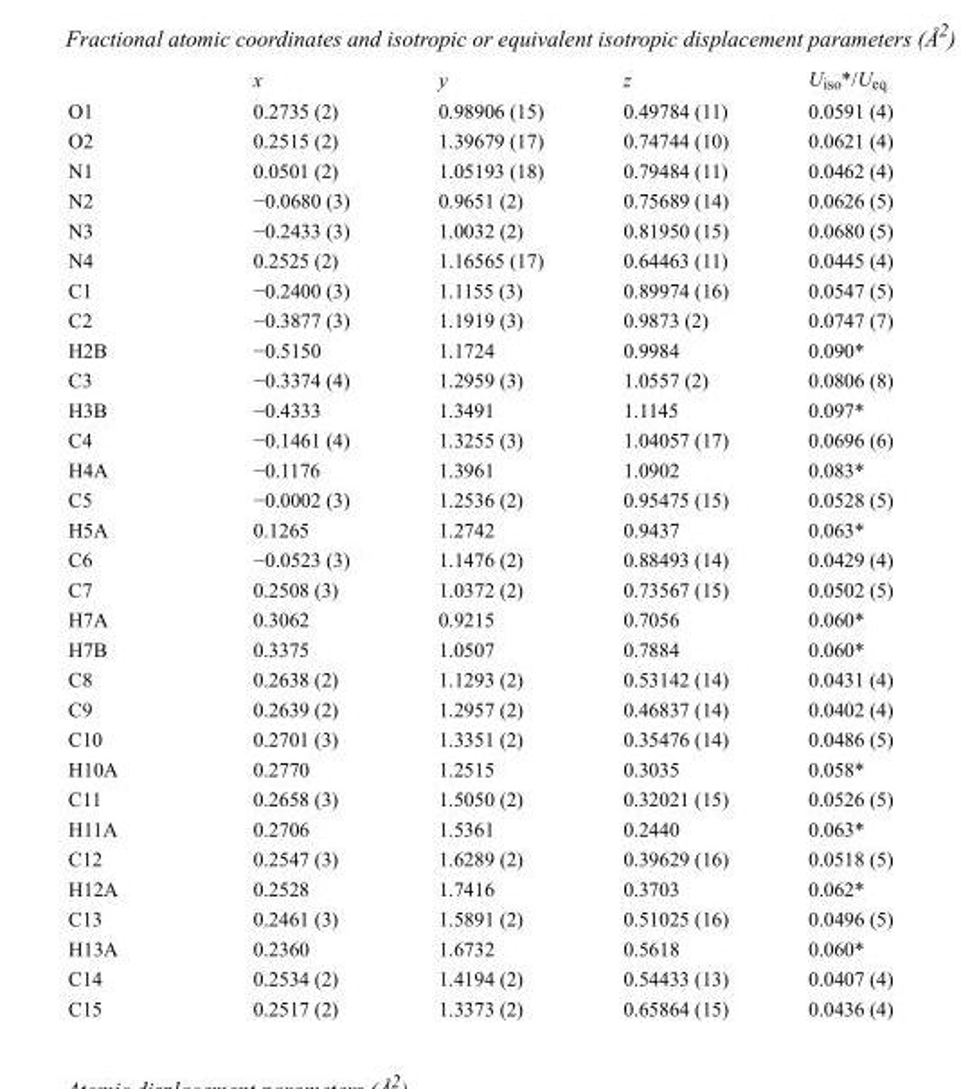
<table><thead><tr><td></td><td>x</td><td>y</td><td>z</td><td>U<sub>iso</sub>*/U<sub>eq</sub></td></tr></thead><tbody><tr><td>O1</td><td>0.2735 (2)</td><td>0.98906 (15)</td><td>0.49784 (11)</td><td>0.0591 (4)</td></tr><tr><td>O2</td><td>0.2515 (2)</td><td>1.39679 (17)</td><td>0.74744 (10)</td><td>0.0621 (4)</td></tr><tr><td>N1</td><td>0.0501 (2)</td><td>1.05193 (18)</td><td>0.79484 (11)</td><td>0.0462 (4)</td></tr><tr><td>N2</td><td>−0.0680 (3)</td><td>0.9651 (2)</td><td>0.75689 (14)</td><td>0.0626 (5)</td></tr><tr><td>N3</td><td>−0.2433 (3)</td><td>1.0032 (2)</td><td>0.81950 (15)</td><td>0.0680 (5)</td></tr><tr><td>N4</td><td>0.2525 (2)</td><td>1.16565 (17)</td><td>0.64463 (11)</td><td>0.0445 (4)</td></tr><tr><td>C1</td><td>−0.2400 (3)</td><td>1.1155 (3)</td><td>0.89974 (16)</td><td>0.0547 (5)</td></tr><tr><td>C2</td><td>−0.3877 (3)</td><td>1.1919 (3)</td><td>0.9873 (2)</td><td>0.0747 (7)</td></tr><tr><td>H2B</td><td>−0.5150</td><td>1.1724</td><td>0.9984</td><td>0.090*</td></tr><tr><td>C3</td><td>−0.3374 (4)</td><td>1.2959 (3)</td><td>1.0557 (2)</td><td>0.0806 (8)</td></tr><tr><td>H3B</td><td>−0.4333</td><td>1.3491</td><td>1.1145</td><td>0.097*</td></tr><tr><td>C4</td><td>−0.1461 (4)</td><td>1.3255 (3)</td><td>1.04057 (17)</td><td>0.0696 (6)</td></tr><tr><td>H4A</td><td>−0.1176</td><td>1.3961</td><td>1.0902</td><td>0.083*</td></tr><tr><td>C5</td><td>−0.0002 (3)</td><td>1.2536 (2)</td><td>0.95475 (15)</td><td>0.0528 (5)</td></tr><tr><td>H5A</td><td>0.1265</td><td>1.2742</td><td>0.9437</td><td>0.063*</td></tr><tr><td>C6</td><td>−0.0523 (3)</td><td>1.1476 (2)</td><td>0.88493 (14)</td><td>0.0429 (4)</td></tr><tr><td>C7</td><td>0.2508 (3)</td><td>1.0372 (2)</td><td>0.73567 (15)</td><td>0.0502 (5)</td></tr><tr><td>H7A</td><td>0.3062</td><td>0.9215</td><td>0.7056</td><td>0.060*</td></tr><tr><td>H7B</td><td>0.3375</td><td>1.0507</td><td>0.7884</td><td>0.060*</td></tr><tr><td>C8</td><td>0.2638 (2)</td><td>1.1293 (2)</td><td>0.53142 (14)</td><td>0.0431 (4)</td></tr><tr><td>C9</td><td>0.2639 (2)</td><td>1.2957 (2)</td><td>0.46837 (14)</td><td>0.0402 (4)</td></tr><tr><td>C10</td><td>0.2701 (3)</td><td>1.3351 (2)</td><td>0.35476 (14)</td><td>0.0486 (5)</td></tr><tr><td>H10A</td><td>0.2770</td><td>1.2515</td><td>0.3035</td><td>0.058*</td></tr><tr><td>C11</td><td>0.2658 (3)</td><td>1.5050 (2)</td><td>0.32021 (15)</td><td>0.0526 (5)</td></tr><tr><td>H11A</td><td>0.2706</td><td>1.5361</td><td>0.2440</td><td>0.063*</td></tr><tr><td>C12</td><td>0.2547 (3)</td><td>1.6289 (2)</td><td>0.39629 (16)</td><td>0.0518 (5)</td></tr><tr><td>H12A</td><td>0.2528</td><td>1.7416</td><td>0.3703</td><td>0.062*</td></tr><tr><td>C13</td><td>0.2461 (3)</td><td>1.5891 (2)</td><td>0.51025 (16)</td><td>0.0496 (5)</td></tr><tr><td>H13A</td><td>0.2360</td><td>1.6732</td><td>0.5618</td><td>0.060*</td></tr><tr><td>C14</td><td>0.2534 (2)</td><td>1.4194 (2)</td><td>0.54433 (13)</td><td>0.0407 (4)</td></tr><tr><td>C15</td><td>0.2517 (2)</td><td>1.3373 (2)</td><td>0.65864 (15)</td><td>0.0436 (4)</td></tr></tbody></table>